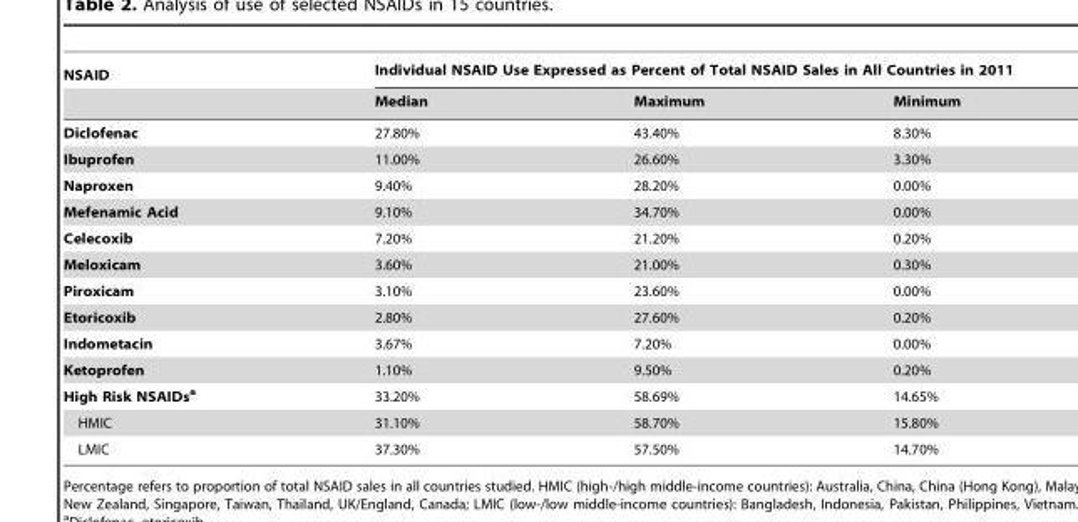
<table><thead><tr><td rowspan="2">NSAID</td><td colspan="3">Individual NSAID Use Expressed as Percent of Total NSAID Sales in All Countries in 2011</td></tr><tr><td>Median</td><td>Maximum</td><td>Minimum</td></tr></thead><tbody><tr><td>Diclofenac</td><td>27.80%</td><td>43.40%</td><td>8.30%</td></tr><tr><td>Ibuprofen</td><td>11.00%</td><td>26.60%</td><td>3.30%</td></tr><tr><td>Naproxen</td><td>9.40%</td><td>28.20%</td><td>0.00%</td></tr><tr><td>Mefenamic Acid</td><td>9.10%</td><td>34.70%</td><td>0.00%</td></tr><tr><td>Celecoxib</td><td>7.20%</td><td>21.20%</td><td>0.20%</td></tr><tr><td>Meloxicam</td><td>3.60%</td><td>21.00%</td><td>0.30%</td></tr><tr><td>Piroxicam</td><td>3.10%</td><td>23.60%</td><td>0.00%</td></tr><tr><td>Etoricoxib</td><td>2.80%</td><td>27.60%</td><td>0.20%</td></tr><tr><td>Indometacin</td><td>3.67%</td><td>7.20%</td><td>0.00%</td></tr><tr><td>Ketoprofen</td><td>1.10%</td><td>9.50%</td><td>0.20%</td></tr><tr><td>High Risk NSAIDsa</td><td>33.20%</td><td>58.69%</td><td>14.65%</td></tr><tr><td>HMIC</td><td>31.10%</td><td>58.70%</td><td>15.80%</td></tr><tr><td>LMIC</td><td>37.30%</td><td>57.50%</td><td>14.70%</td></tr></tbody></table>